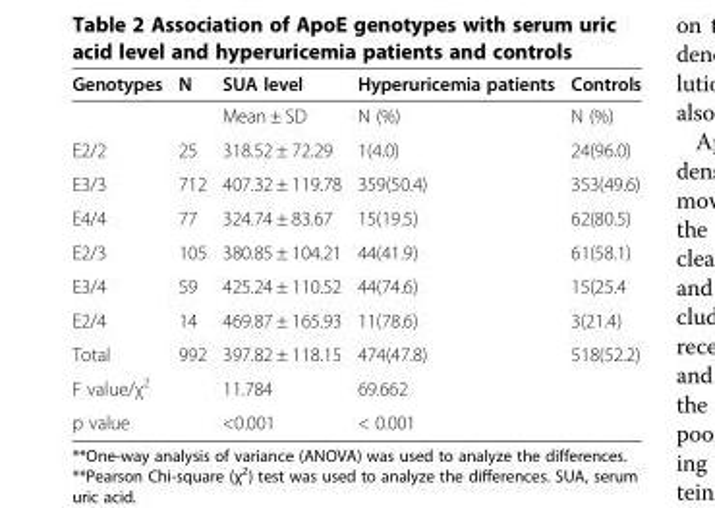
<table><thead><tr><td>Genotypes</td><td>N</td><td>SUA level</td><td>Hyperuricemia patients</td><td>Controls</td></tr></thead><tbody><tr><td></td><td></td><td>Mean ± SD</td><td>N (%)</td><td>N (%)</td></tr><tr><td>E2/2</td><td>25</td><td>318.52 ± 72.29</td><td>1(4.0)</td><td>24(96.0)</td></tr><tr><td>E3/3</td><td>712</td><td>407.32 ± 119.78</td><td>359(50.4)</td><td>353(49.6)</td></tr><tr><td>E4/4</td><td>77</td><td>324.74 ± 83.67</td><td>15(19.5)</td><td>62(80.5)</td></tr><tr><td>E2/3</td><td>105</td><td>380.85 ± 104.21</td><td>44(41.9)</td><td>61(58.1)</td></tr><tr><td>E3/4</td><td>59</td><td>425.24 ± 110.52</td><td>44(74.6)</td><td>15(25.4</td></tr><tr><td>E2/4</td><td>14</td><td>469.87 ± 165.93</td><td>11(78.6)</td><td>3(21.4)</td></tr><tr><td>Total</td><td>992</td><td>397.82 ± 118.15</td><td>474(47.8)</td><td>518(52.2)</td></tr><tr><td>F value/χ<sup>2</sup></td><td></td><td>11.784</td><td>69.662</td><td></td></tr><tr><td>p value</td><td></td><td>&lt;0.001</td><td>&lt; 0.001</td><td></td></tr></tbody></table>